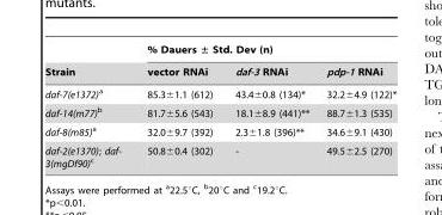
<table><thead><tr><td rowspan="2">Strain</td><td colspan="3">% Dauers ± Std. Dev (n)</td></tr><tr><td>vector RNAi</td><td>daf-3 RNAi</td><td>pdp-1 RNAi</td></tr></thead><tbody><tr><td>daf-7(e1372)a</td><td>85.3±1.1 (612)</td><td>43.4±0.8 (134)*</td><td>32.2±4.9 (122)*</td></tr><tr><td>daf-14(m77)b</td><td>81.7±5.6 (543)</td><td>18.1±8.9 (441)**</td><td>88.7±1.3 (535)</td></tr><tr><td>daf-8(m85)a</td><td>32.0±9.7 (392)</td><td>2.3±1.8 (396)**</td><td>34.6±9.1 (430)</td></tr><tr><td>daf-2(e1370); daf- 3(mgDf90)c</td><td>50.8±0.4 (302)</td><td>-</td><td>49.5±2.5 (270)</td></tr></tbody></table>